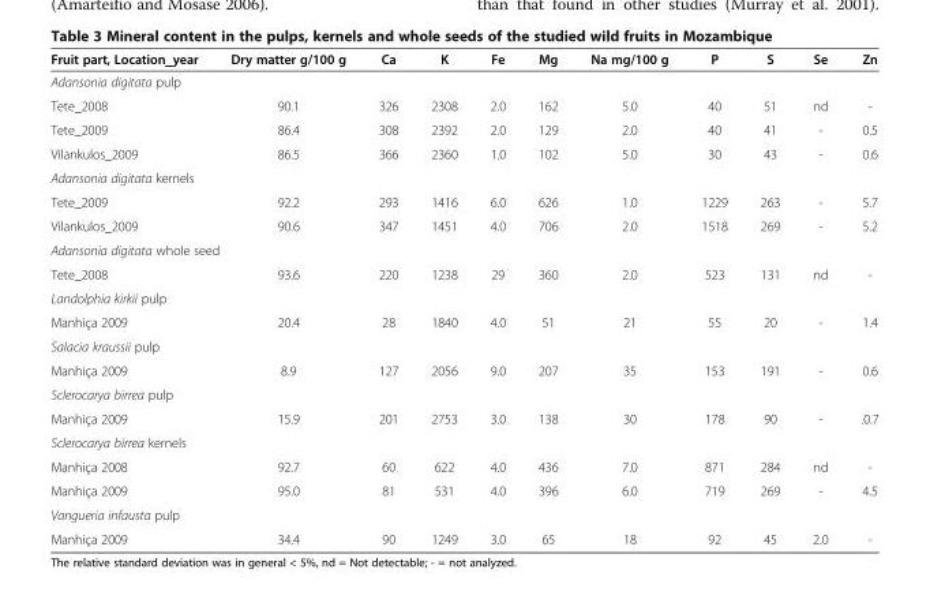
<table><thead><tr><td>Fruit part, Location_year</td><td>Dry matter g/100 g</td><td>Ca</td><td>K</td><td>Fe</td><td>Mg</td><td>Na mg/100 g</td><td>P</td><td>S</td><td>Se</td><td>Zn</td></tr></thead><tbody><tr><td colspan="11">Adansonia digitata pulp</td></tr><tr><td>Tete_2008</td><td>90.1</td><td>326</td><td>2308</td><td>2.0</td><td>162</td><td>5.0</td><td>40</td><td>51</td><td>nd</td><td>-</td></tr><tr><td>Tete_2009</td><td>86.4</td><td>308</td><td>2392</td><td>2.0</td><td>129</td><td>2.0</td><td>40</td><td>41</td><td>-</td><td>0.5</td></tr><tr><td>Vilankulos_2009</td><td>86.5</td><td>366</td><td>2360</td><td>1.0</td><td>102</td><td>5.0</td><td>30</td><td>43</td><td>-</td><td>0.6</td></tr><tr><td colspan="11">Adansonia digitata kernels</td></tr><tr><td>Tete_2009</td><td>92.2</td><td>293</td><td>1416</td><td>6.0</td><td>626</td><td>1.0</td><td>1229</td><td>263</td><td>-</td><td>5.7</td></tr><tr><td>Vilankulos_2009</td><td>90.6</td><td>347</td><td>1451</td><td>4.0</td><td>706</td><td>2.0</td><td>1518</td><td>269</td><td>-</td><td>5.2</td></tr><tr><td colspan="11">Adansonia digitata whole seed</td></tr><tr><td>Tete_2008</td><td>93.6</td><td>220</td><td>1238</td><td>29</td><td>360</td><td>2.0</td><td>523</td><td>131</td><td>nd</td><td>-</td></tr><tr><td colspan="11">Landolphia kirkii pulp</td></tr><tr><td>Manhiça 2009</td><td>20.4</td><td>28</td><td>1840</td><td>4.0</td><td>51</td><td>21</td><td>55</td><td>20</td><td>-</td><td>1.4</td></tr><tr><td colspan="11">Salacia kraussii pulp</td></tr><tr><td>Manhiça 2009</td><td>8.9</td><td>127</td><td>2056</td><td>9.0</td><td>207</td><td>35</td><td>153</td><td>191</td><td>-</td><td>0.6</td></tr><tr><td colspan="11">Sclerocarya birrea pulp</td></tr><tr><td>Manhiça 2009</td><td>15.9</td><td>201</td><td>2753</td><td>3.0</td><td>138</td><td>30</td><td>178</td><td>90</td><td>-</td><td>.0.7</td></tr><tr><td colspan="11">Sclerocarya birrea kernels</td></tr><tr><td>Manhiça 2008</td><td>92.7</td><td>60</td><td>622</td><td>4.0</td><td>436</td><td>7.0</td><td>871</td><td>284</td><td>nd</td><td>-</td></tr><tr><td>Manhiça 2009</td><td>95.0</td><td>81</td><td>531</td><td>4.0</td><td>396</td><td>6.0</td><td>719</td><td>269</td><td>-</td><td>4.5</td></tr><tr><td colspan="11">Vangueria infausta pulp</td></tr><tr><td>Manhiça 2009</td><td>34.4</td><td>90</td><td>1249</td><td>3.0</td><td>65</td><td>18</td><td>92</td><td>45</td><td>2.0</td><td>-</td></tr></tbody></table>